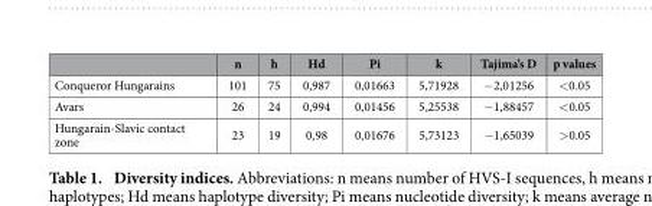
<table><thead><tr><td></td><td>n</td><td>h</td><td>Hd</td><td>Pi</td><td>k</td><td>Tajima’s D</td><td>p values</td></tr></thead><tbody><tr><td>Conqueror Hungarains</td><td>101</td><td>75</td><td>0,987</td><td>0,01663</td><td>5,71928</td><td>− 2,01256</td><td>&lt; 0.05</td></tr><tr><td>Avars</td><td>26</td><td>24</td><td>0,994</td><td>0,01456</td><td>5,25538</td><td>− 1,88457</td><td>&lt; 0.05</td></tr><tr><td>Hungarain-Slavic contact zone</td><td>23</td><td>19</td><td>0,98</td><td>0,01676</td><td>5,73123</td><td>− 1,65039</td><td>&gt; 0.05</td></tr></tbody></table>